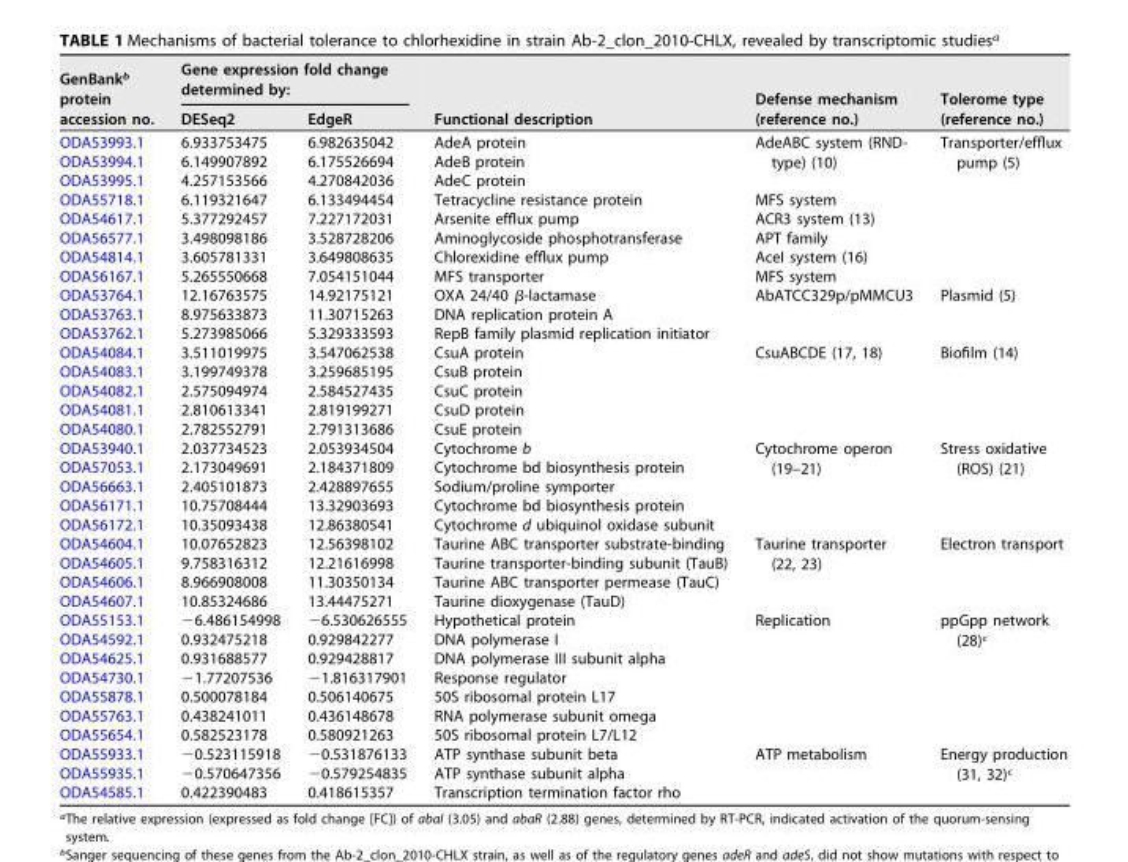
<table><thead><tr><td rowspan="2">GenBank<sup>b</sup> protein accession no.</td><td colspan="2">Gene expression fold change determined by:</td><td rowspan="2">Functional description</td><td rowspan="2">Defense mechanism (reference no.)</td><td rowspan="2">Tolerome type (reference no.)</td></tr><tr><td>DESeq2</td><td>EdgeR</td></tr></thead><tbody><tr><td>ODA53993.1</td><td>6.933753475</td><td>6.982635042</td><td>AdeA protein</td><td rowspan="3">AdeABC system (RND- type) (10)</td><td rowspan="8">Transporter/efflux pump (5)</td></tr><tr><td>ODA53994.1</td><td>6.149907892</td><td>6.175526694</td><td>AdeB protein</td></tr><tr><td>ODA53995.1</td><td>4.257153566</td><td>4.270842036</td><td>AdeC protein</td></tr><tr><td>ODA55718.1</td><td>6.119321647</td><td>6.133494454</td><td>Tetracycline resistance protein</td><td>MFS system</td></tr><tr><td>ODA54617.1</td><td>5.377292457</td><td>7.227172031</td><td>Arsenite efflux pump</td><td>ACR3 system (13)</td></tr><tr><td>ODA56577.1</td><td>3.498098186</td><td>3.528728206</td><td>Aminoglycoside phosphotransferase</td><td>APT family</td></tr><tr><td>ODA54814.1</td><td>3.605781331</td><td>3.649808635</td><td>Chlorexidine efflux pump</td><td>AceI system (16)</td></tr><tr><td>ODA56167.1</td><td>5.265550668</td><td>7.054151044</td><td>MFS transporter</td><td>MFS system</td></tr><tr><td>ODA53764.1</td><td>12.16763575</td><td>14.92175121</td><td>OXA 24/40 β-lactamase</td><td rowspan="3">AbATCC329p/pMMCU3</td><td rowspan="3">Plasmid (5)</td></tr><tr><td>ODA53763.1</td><td>8.975633873</td><td>11.30715263</td><td>DNA replication protein A</td></tr><tr><td>ODA53762.1</td><td>5.273985066</td><td>5.329333593</td><td>RepB family plasmid replication initiator</td></tr><tr><td>ODA54084.1</td><td>3.511019975</td><td>3.547062538</td><td>CsuA protein</td><td rowspan="5">CsuABCDE (17, 18)</td><td rowspan="5">Biofilm (14)</td></tr><tr><td>ODA54083.1</td><td>3.199749378</td><td>3.259685195</td><td>CsuB protein</td></tr><tr><td>ODA54082.1</td><td>2.575094974</td><td>2.584527435</td><td>CsuC protein</td></tr><tr><td>ODA54081.1</td><td>2.810613341</td><td>2.819199271</td><td>CsuD protein</td></tr><tr><td>ODA54080.1</td><td>2.782552791</td><td>2.791313686</td><td>CsuE protein</td></tr><tr><td>ODA53940.1</td><td>2.037734523</td><td>2.053934504</td><td>Cytochrome b</td><td rowspan="5">Cytochrome operon (19–21)</td><td rowspan="5">Stress oxidative (ROS) (21)</td></tr><tr><td>ODA57053.1</td><td>2.173049691</td><td>2.184371809</td><td>Cytochrome bd biosynthesis protein</td></tr><tr><td>ODA56663.1</td><td>2.405101873</td><td>2.428897655</td><td>Sodium/proline symporter</td></tr><tr><td>ODA56171.1</td><td>10.75708444</td><td>13.32903693</td><td>Cytochrome bd biosynthesis protein</td></tr><tr><td>ODA56172.1</td><td>10.35093438</td><td>12.86380541</td><td>Cytochrome d ubiquinol oxidase subunit</td></tr><tr><td>ODA54604.1</td><td>10.07652823</td><td>12.56398102</td><td>Taurine ABC transporter substrate-binding</td><td rowspan="4">Taurine transporter (22, 23)</td><td rowspan="4">Electron transport</td></tr><tr><td>ODA54605.1</td><td>9.758316312</td><td>12.21616998</td><td>Taurine transporter-binding subunit (TauB)</td></tr><tr><td>ODA54606.1</td><td>8.966908008</td><td>11.30350134</td><td>Taurine ABC transporter permease (TauC)</td></tr><tr><td>ODA54607.1</td><td>10.85324686</td><td>13.44475271</td><td>Taurine dioxygenase (TauD)</td></tr><tr><td>ODA55153.1</td><td>−6.486154998</td><td>−6.530626555</td><td>Hypothetical protein</td><td rowspan="7">Replication</td><td rowspan="7">ppGpp network (28)<sup>c</sup></td></tr><tr><td>ODA54592.1</td><td>0.932475218</td><td>0.929842277</td><td>DNA polymerase I</td></tr><tr><td>ODA54625.1</td><td>0.931688577</td><td>0.929428817</td><td>DNA polymerase III subunit alpha</td></tr><tr><td>ODA54730.1</td><td>−1.77207536</td><td>−1.816317901</td><td>Response regulator</td></tr><tr><td>ODA55878.1</td><td>0.500078184</td><td>0.506140675</td><td>50S ribosomal protein L17</td></tr><tr><td>ODA55763.1</td><td>0.438241011</td><td>0.436148678</td><td>RNA polymerase subunit omega</td></tr><tr><td>ODA55654.1</td><td>0.582523178</td><td>0.580921263</td><td>50S ribosomal protein L7/L12</td></tr><tr><td>ODA55933.1</td><td>−0.523115918</td><td>−0.531876133</td><td>ATP synthase subunit beta</td><td rowspan="3">ATP metabolism</td><td rowspan="3">Energy production (31, 32)<sup>c</sup></td></tr><tr><td>ODA55935.1</td><td>−0.570647356</td><td>−0.579254835</td><td>ATP synthase subunit alpha</td></tr><tr><td>ODA54585.1</td><td>0.422390483</td><td>0.418615357</td><td>Transcription termination factor rho</td></tr></tbody></table>